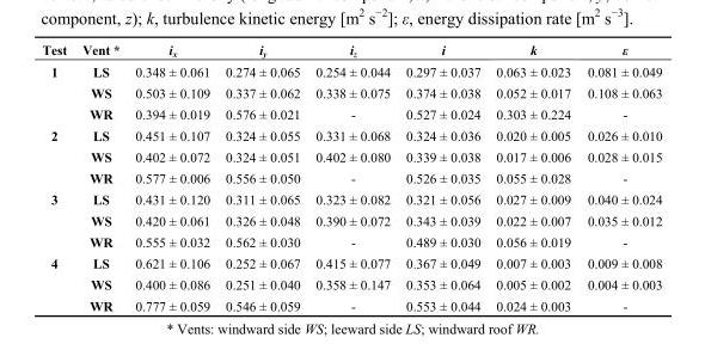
<table><thead><tr><td>Test</td><td>Vent *</td><td>i<sub>x</sub></td><td>i<sub>y</sub></td><td>i<sub>z</sub></td><td>i</td><td>k</td><td>ε</td></tr></thead><tbody><tr><td rowspan="3">1</td><td>LS</td><td>0.348 ± 0.061</td><td>0.274 ± 0.065</td><td>0.254 ± 0.044</td><td>0.297 ± 0.037</td><td>0.063 ± 0.023</td><td>0.081 ± 0.049</td></tr><tr><td>WS</td><td>0.503 ± 0.109</td><td>0.337 ± 0.062</td><td>0.338 ± 0.075</td><td>0.374 ± 0.038</td><td>0.052 ± 0.017</td><td>0.108 ± 0.063</td></tr><tr><td>WR</td><td>0.394 ± 0.019</td><td>0.576 ± 0.021</td><td>-</td><td>0.527 ± 0.024</td><td>0.303 ± 0.224</td><td>-</td></tr><tr><td rowspan="3">2</td><td>LS</td><td>0.451 ± 0.107</td><td>0.324 ± 0.055</td><td>0.331 ± 0.068</td><td>0.324 ± 0.036</td><td>0.020 ± 0.005</td><td>0.026 ± 0.010</td></tr><tr><td>WS</td><td>0.402 ± 0.072</td><td>0.324 ± 0.051</td><td>0.402 ± 0.080</td><td>0.339 ± 0.038</td><td>0.017 ± 0.006</td><td>0.028 ± 0.015</td></tr><tr><td>WR</td><td>0.577 ± 0.006</td><td>0.556 ± 0.050</td><td>-</td><td>0.526 ± 0.035</td><td>0.055 ± 0.028</td><td>-</td></tr><tr><td rowspan="3">3</td><td>LS</td><td>0.431 ± 0.120</td><td>0.311 ± 0.065</td><td>0.323 ± 0.082</td><td>0.321 ± 0.056</td><td>0.027 ± 0.009</td><td>0.040 ± 0.024</td></tr><tr><td>WS</td><td>0.420 ± 0.061</td><td>0.326 ± 0.048</td><td>0.390 ± 0.072</td><td>0.343 ± 0.039</td><td>0.022 ± 0.007</td><td>0.035 ± 0.012</td></tr><tr><td>WR</td><td>0.555 ± 0.032</td><td>0.562 ± 0.030</td><td>-</td><td>0.489 ± 0.030</td><td>0.056 ± 0.019</td><td>-</td></tr><tr><td rowspan="3">4</td><td>LS</td><td>0.621 ± 0.106</td><td>0.252 ± 0.067</td><td>0.415 ± 0.077</td><td>0.367 ± 0.049</td><td>0.007 ± 0.003</td><td>0.009 ± 0.008</td></tr><tr><td>WS</td><td>0.400 ± 0.086</td><td>0.251 ± 0.040</td><td>0.358 ± 0.147</td><td>0.353 ± 0.064</td><td>0.005 ± 0.002</td><td>0.004 ± 0.003</td></tr><tr><td>WR</td><td>0.777 ± 0.059</td><td>0.546 ± 0.059</td><td>-</td><td>0.553 ± 0.044</td><td>0.024 ± 0.003</td><td>-</td></tr></tbody></table>